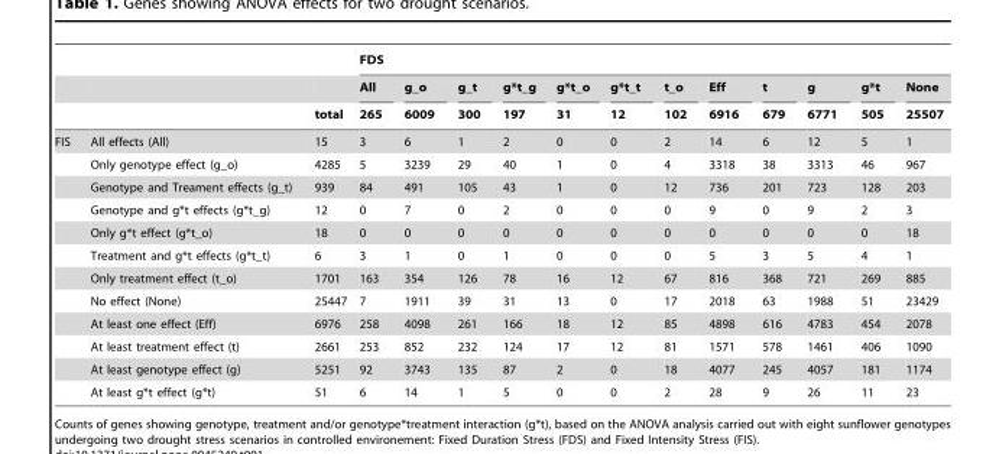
<table><thead><tr><td rowspan="3"></td><td rowspan="3"></td><td rowspan="3">total</td><td colspan="12">FDS</td></tr><tr><td rowspan="2">All 265</td><td rowspan="2">g_o 6009</td><td rowspan="2">g_t 300</td><td rowspan="2">g*t_g 197</td><td rowspan="2">g*t_o 31</td><td rowspan="2">g*t_t 12</td><td rowspan="2">t_o 102</td><td rowspan="2">Eff 6916</td><td rowspan="2">t 679</td><td rowspan="2">g 6771</td><td rowspan="2">g*t 505</td><td rowspan="2">None 25507</td></tr><tr></tr></thead><tbody><tr><td rowspan="12">FIS</td><td>All effects (All)</td><td>15</td><td>3</td><td>6</td><td>1</td><td>2</td><td>0</td><td>0</td><td>2</td><td>14</td><td>6</td><td>12</td><td>5</td><td>1</td></tr><tr><td>Only genotype effect (g_o)</td><td>4285</td><td>5</td><td>3239</td><td>29</td><td>40</td><td>1</td><td>0</td><td>4</td><td>3318</td><td>38</td><td>3313</td><td>46</td><td>967</td></tr><tr><td>Genotype and Treament effects (g_t)</td><td>939</td><td>84</td><td>491</td><td>105</td><td>43</td><td>1</td><td>0</td><td>12</td><td>736</td><td>201</td><td>723</td><td>128</td><td>203</td></tr><tr><td>Genotype and g*t effects (g*t_g)</td><td>12</td><td>0</td><td>7</td><td>0</td><td>2</td><td>0</td><td>0</td><td>0</td><td>9</td><td>0</td><td>9</td><td>2</td><td>3</td></tr><tr><td>Only g*t effect (g*t_o)</td><td>18</td><td>0</td><td>0</td><td>0</td><td>0</td><td>0</td><td>0</td><td>0</td><td>0</td><td>0</td><td>0</td><td>0</td><td>18</td></tr><tr><td>Treatment and g*t effects (g*t_t)</td><td>6</td><td>3</td><td>1</td><td>0</td><td>1</td><td>0</td><td>0</td><td>0</td><td>5</td><td>3</td><td>5</td><td>4</td><td>1</td></tr><tr><td>Only treatment effect (t_o)</td><td>1701</td><td>163</td><td>354</td><td>126</td><td>78</td><td>16</td><td>12</td><td>67</td><td>816</td><td>368</td><td>721</td><td>269</td><td>885</td></tr><tr><td>No effect (None)</td><td>25447</td><td>7</td><td>1911</td><td>39</td><td>31</td><td>13</td><td>0</td><td>17</td><td>2018</td><td>63</td><td>1988</td><td>51</td><td>23429</td></tr><tr><td>At least one effect (Eff)</td><td>6976</td><td>258</td><td>4098</td><td>261</td><td>166</td><td>18</td><td>12</td><td>85</td><td>4898</td><td>616</td><td>4783</td><td>454</td><td>2078</td></tr><tr><td>At least treatment effect (t)</td><td>2661</td><td>253</td><td>852</td><td>232</td><td>124</td><td>17</td><td>12</td><td>81</td><td>1571</td><td>578</td><td>1461</td><td>406</td><td>1090</td></tr><tr><td>At least genotype effect (g)</td><td>5251</td><td>92</td><td>3743</td><td>135</td><td>87</td><td>2</td><td>0</td><td>18</td><td>4077</td><td>245</td><td>4057</td><td>181</td><td>1174</td></tr><tr><td>At least g*t effect (g*t)</td><td>51</td><td>6</td><td>14</td><td>1</td><td>5</td><td>0</td><td>0</td><td>2</td><td>28</td><td>9</td><td>26</td><td>11</td><td>23</td></tr></tbody></table>